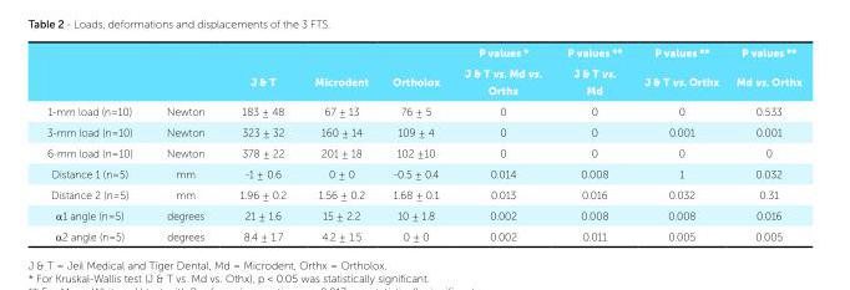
<table><thead><tr><td></td><td></td><td></td><td></td><td></td><td>P values *</td><td>P values **</td><td>P values **</td><td>P values **</td></tr></thead><tbody><tr><td></td><td></td><td>J &amp; T</td><td>Microdent</td><td>Ortholox</td><td>J &amp; T vs. Md vs. Orthx</td><td>J &amp; T vs. Md</td><td>J &amp; T vs. Orthx</td><td>Md vs. Orthx</td></tr><tr><td>1-mm load (n=10)</td><td>Newton</td><td>183 ± 48</td><td>67 ± 13</td><td>76 ± 5</td><td>0</td><td>0</td><td>0</td><td>0.533</td></tr><tr><td>3-mm load (n=10)</td><td>Newton</td><td>323 ± 32</td><td>160 ± 14</td><td>109 ± 4</td><td>0</td><td>0</td><td>0.001</td><td>0.001</td></tr><tr><td>6-mm load (n=10)</td><td>Newton</td><td>378 ± 22</td><td>201 ± 18</td><td>102 ±10</td><td>0</td><td>0</td><td>0</td><td>0</td></tr><tr><td>Distance 1 (n=5)</td><td>mm</td><td>-1 ± 0.6</td><td>0 ± 0</td><td>-0.5 ± 0.4</td><td>0.014</td><td>0.008</td><td>1</td><td>0.032</td></tr><tr><td>Distance 2 (n=5)</td><td>mm</td><td>1.96 ± 0.2</td><td>1.56 ± 0.2</td><td>1.68 ± 0.1</td><td>0.013</td><td>0.016</td><td>0.032</td><td>0.31</td></tr><tr><td>α1 angle (n=5)</td><td>degrees</td><td>21 ± 1.6</td><td>15 ± 2.2</td><td>10 ± 1.8</td><td>0.002</td><td>0.008</td><td>0.008</td><td>0.016</td></tr><tr><td>α2 angle (n=5)</td><td>degrees</td><td>8.4 ± 1.7</td><td>4.2 ± 1.5</td><td>0 ± 0</td><td>0.002</td><td>0.011</td><td>0.005</td><td>0.005</td></tr></tbody></table>